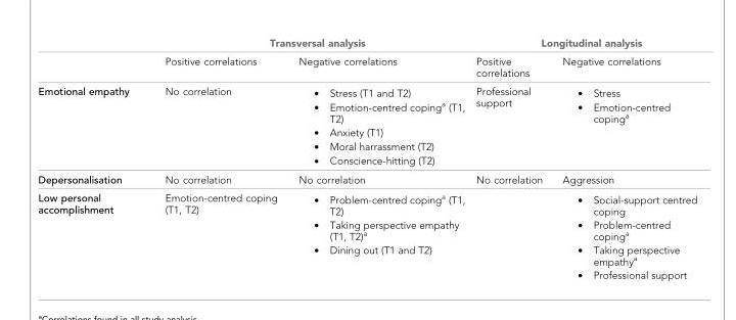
<table><thead><tr><td rowspan="2"></td><td colspan="2">Transversal analysis</td><td colspan="2">Longitudinal analysis</td></tr><tr><td>Positive correlations</td><td>Negative correlations</td><td>Positive correlations</td><td>Negative correlations</td></tr></thead><tbody><tr><td>Emotional empathy</td><td>No correlation</td><td>. Stress (T1 and T2) . Emotion-centred copinga (T1, T2) . Anxiety (T1) . Moral harrassment (T2) . Conscience-hitting (T2)</td><td>Professional support</td><td>. Stress . Emotion-centred copinga</td></tr><tr><td>Depersonalisation</td><td>No correlation</td><td>No correlation</td><td>No correlation</td><td>Aggression</td></tr><tr><td>Low personal accomplishment</td><td>Emotion-centred coping (T1, T2)</td><td>. Problem-centred copinga (T1, T2) . Taking perspective empathy (T1, T2)a . Dining out (T1 and T2)</td><td></td><td>. Social-support centred coping . Problem-centred copinga . Taking perspective empathya . Professional support</td></tr></tbody></table>